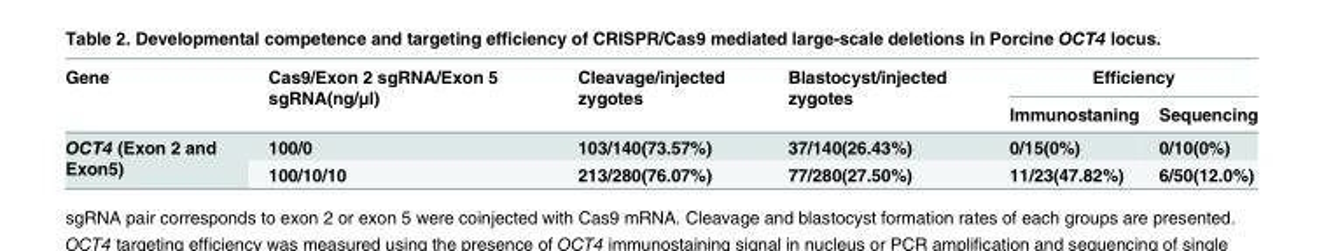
<table><thead><tr><td rowspan="2">Gene</td><td rowspan="2">Cas9/Exon 2 sgRNA/Exon 5 sgRNA(ng/μl)</td><td rowspan="2">Cleavage/injected zygotes</td><td rowspan="2">Blastocyst/injected zygotes</td><td colspan="2">Efficiency</td></tr><tr><td>Immunostaning</td><td>Sequencing</td></tr></thead><tbody><tr><td rowspan="2">OCT4 (Exon 2 and Exon5)</td><td>100/0</td><td>103/140(73.57%)</td><td>37/140(26.43%)</td><td>0/15(0%)</td><td>0/10(0%)</td></tr><tr><td>100/10/10</td><td>213/280(76.07%)</td><td>77/280(27.50%)</td><td>11/23(47.82%)</td><td>6/50(12.0%)</td></tr></tbody></table>